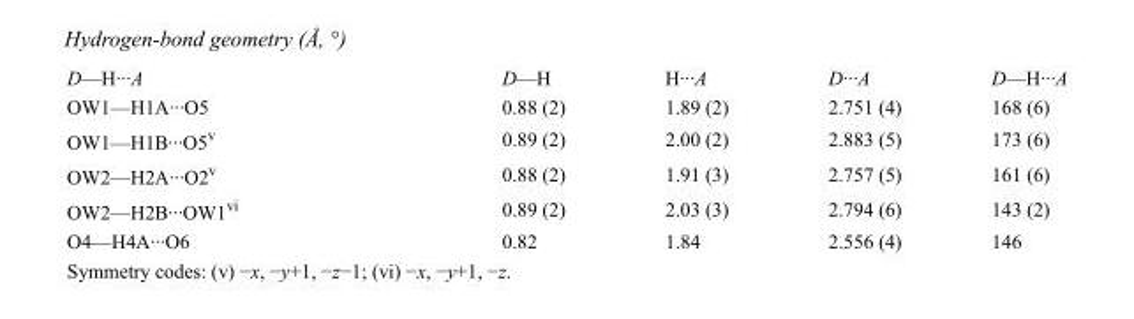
<table><tbody><tr><td>D—H···A</td><td>D—H</td><td>H···A</td><td>D···A</td><td>D—H···A</td></tr><tr><td>OW1—H1A···O5</td><td>0.88 (2)</td><td>1.89 (2)</td><td>2.751 (4)</td><td>168 (6)</td></tr><tr><td>OW1—H1B···O5<sup>v</sup></td><td>0.89 (2)</td><td>2.00 (2)</td><td>2.883 (5)</td><td>173 (6)</td></tr><tr><td>OW2—H2A···O2<sup>v</sup></td><td>0.88 (2)</td><td>1.91 (3)</td><td>2.757 (5)</td><td>161 (6)</td></tr><tr><td>OW2—H2B···OW1<sup>vi</sup></td><td>0.89 (2)</td><td>2.03 (3)</td><td>2.794 (6)</td><td>143 (2)</td></tr><tr><td>O4—H4A···O6</td><td>0.82</td><td>1.84</td><td>2.556 (4)</td><td>146</td></tr></tbody></table>